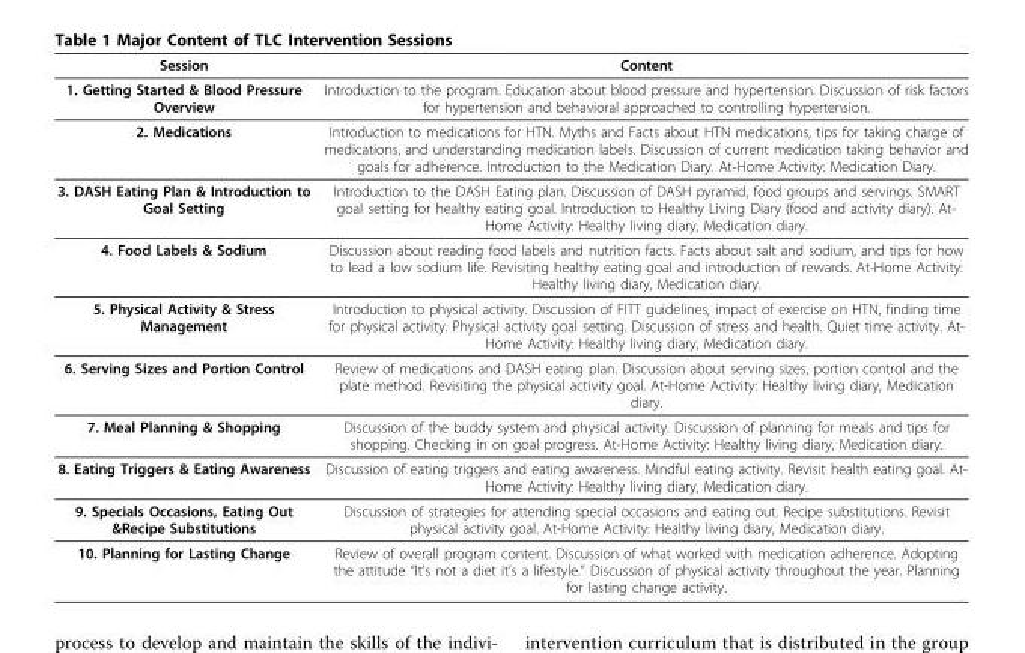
<table><thead><tr><td>Session</td><td>Content</td></tr></thead><tbody><tr><td>1. Getting Started &amp; Blood Pressure Overview</td><td>Introduction to the program. Education about blood pressure and hypertension. Discussion of risk factors for hypertension and behavioral approached to controlling hypertension.</td></tr><tr><td>2. Medications</td><td>Introduction to medications for HTN. Myths and Facts about HTN medications, tips for taking charge of medications, and understanding medication labels. Discussion of current medication taking behavior and goals for adherence. Introduction to the Medication Diary. At-Home Activity: Medication Diary.</td></tr><tr><td>3. DASH Eating Plan &amp; Introduction to Goal Setting</td><td>Introduction to the DASH Eating plan. Discussion of DASH pyramid, food groups and servings. SMART goal setting for healthy eating goal. Introduction to Healthy Living Diary (food and activity diary). At- Home Activity: Healthy living diary, Medication diary.</td></tr><tr><td>4. Food Labels &amp; Sodium</td><td>Discussion about reading food labels and nutrition facts. Facts about salt and sodium, and tips for how to lead a low sodium life. Revisiting healthy eating goal and introduction of rewards. At-Home Activity: Healthy living diary, Medication diary.</td></tr><tr><td>5. Physical Activity &amp; Stress Management</td><td>Introduction to physical activity. Discussion of FITT guidelines, impact of exercise on HTN, finding time for physical activity. Physical activity goal setting. Discussion of stress and health. Quiet time activity. At- Home Activity: Healthy living diary, Medication diary.</td></tr><tr><td>6. Serving Sizes and Portion Control</td><td>Review of medications and DASH eating plan. Discussion about serving sizes, portion control and the plate method. Revisiting the physical activity goal. At-Home Activity: Healthy living diary, Medication diary.</td></tr><tr><td>7. Meal Planning &amp; Shopping</td><td>Discussion of the buddy system and physical activity. Discussion of planning for meals and tips for shopping. Checking in on goal progress. At-Home Activity: Healthy living diary, Medication diary.</td></tr><tr><td>8. Eating Triggers &amp; Eating Awareness</td><td>Discussion of eating triggers and eating awareness. Mindful eating activity. Revisit health eating goal. At- Home Activity: Healthy living diary, Medication diary.</td></tr><tr><td>9. Specials Occasions, Eating Out &amp;Recipe Substitutions</td><td>Discussion of strategies for attending special occasions and eating out. Recipe substitutions. Revisit physical activity goal. At-Home Activity: Healthy living diary, Medication diary.</td></tr><tr><td>10. Planning for Lasting Change</td><td>Review of overall program content. Discussion of what worked with medication adherence. Adopting the attitude “It’s not a diet it’s a lifestyle.” Discussion of physical activity throughout the year. Planning for lasting change activity.</td></tr></tbody></table>